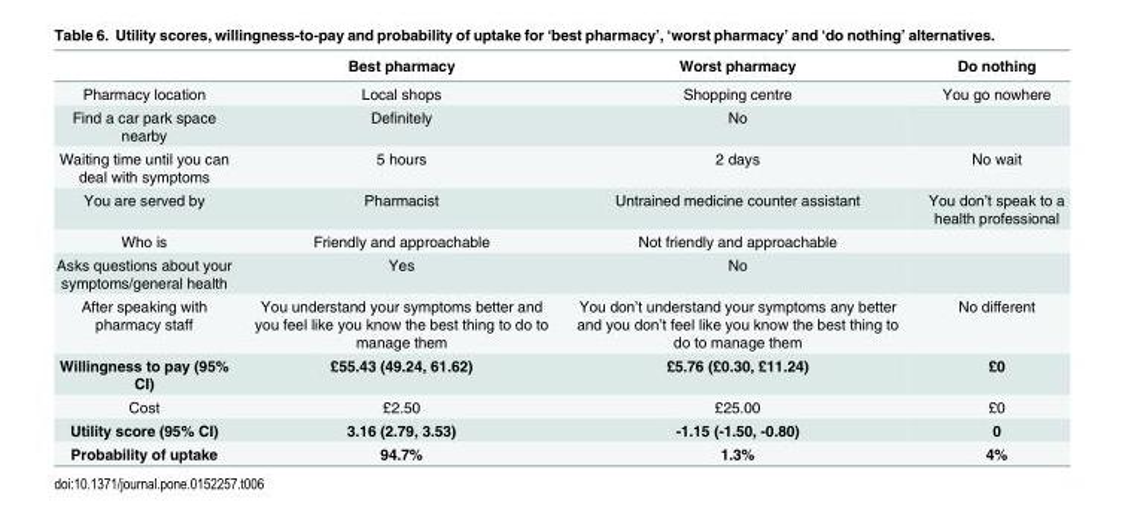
<table><thead><tr><td></td><td>Best pharmacy</td><td>Worst pharmacy</td><td>Do nothing</td></tr></thead><tbody><tr><td>Pharmacy location</td><td>Local shops</td><td>Shopping centre</td><td>You go nowhere</td></tr><tr><td>Find a car park space nearby</td><td>Definitely</td><td>No</td><td></td></tr><tr><td>Waiting time until you can deal with symptoms</td><td>5 hours</td><td>2 days</td><td>No wait</td></tr><tr><td>You are served by</td><td>Pharmacist</td><td>Untrained medicine counter assistant</td><td>You don’t speak to a health professional</td></tr><tr><td>Who is</td><td>Friendly and approachable</td><td>Not friendly and approachable</td><td></td></tr><tr><td>Asks questions about your symptoms/general health</td><td>Yes</td><td>No</td><td></td></tr><tr><td>After speaking with pharmacy staff</td><td>You understand your symptoms better and you feel like you know the best thing to do to manage them</td><td>You don’t understand your symptoms any better and you don’t feel like you know the best thing to do to manage them</td><td>No different</td></tr><tr><td>Willingness to pay (95% CI)</td><td>£55.43 (49.24, 61.62)</td><td>£5.76 (£0.30, £11.24)</td><td>£0</td></tr><tr><td>Cost</td><td>£2.50</td><td>£25.00</td><td>£0</td></tr><tr><td>Utility score (95% CI)</td><td>3.16 (2.79, 3.53)</td><td>-1.15 (-1.50, -0.80)</td><td>0</td></tr><tr><td>Probability of uptake</td><td>94.7%</td><td>1.3%</td><td>4%</td></tr></tbody></table>